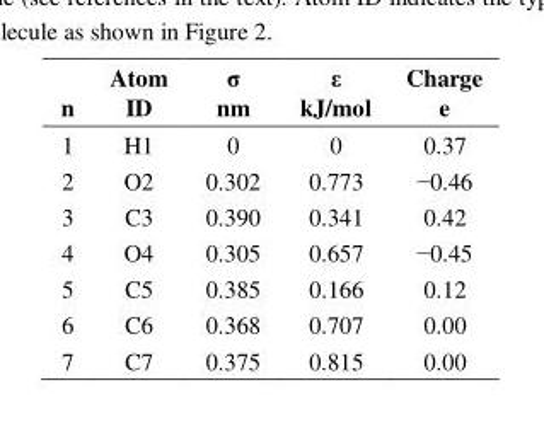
<table><thead><tr><td>n</td><td>Atom ID</td><td>σ nm</td><td>ε kJ/mol</td><td>Charge e</td></tr></thead><tbody><tr><td>1</td><td>H1</td><td>0</td><td>0</td><td>0.37</td></tr><tr><td>2</td><td>O2</td><td>0.302</td><td>0.773</td><td>−0.46</td></tr><tr><td>3</td><td>C3</td><td>0.390</td><td>0.341</td><td>0.42</td></tr><tr><td>4</td><td>O4</td><td>0.305</td><td>0.657</td><td>−0.45</td></tr><tr><td>5</td><td>C5</td><td>0.385</td><td>0.166</td><td>0.12</td></tr><tr><td>6</td><td>C6</td><td>0.368</td><td>0.707</td><td>0.00</td></tr><tr><td>7</td><td>C7</td><td>0.375</td><td>0.815</td><td>0.00</td></tr></tbody></table>